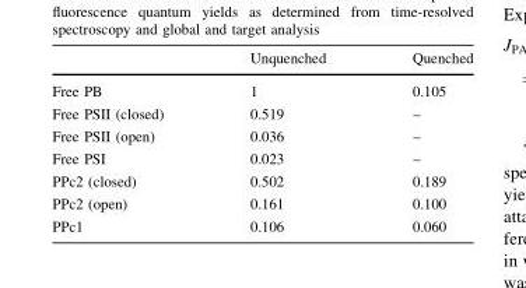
<table><thead><tr><td></td><td>Unquenched</td><td>Quenched</td></tr></thead><tbody><tr><td>Free PB</td><td>1</td><td>0.105</td></tr><tr><td>Free PSII (closed)</td><td>0.519</td><td>–</td></tr><tr><td>Free PSII (open)</td><td>0.036</td><td>–</td></tr><tr><td>Free PSI</td><td>0.023</td><td>–</td></tr><tr><td>PPc2 (closed)</td><td>0.502</td><td>0.189</td></tr><tr><td>PPc2 (open)</td><td>0.161</td><td>0.100</td></tr><tr><td>PPc1</td><td>0.106</td><td>0.060</td></tr></tbody></table>